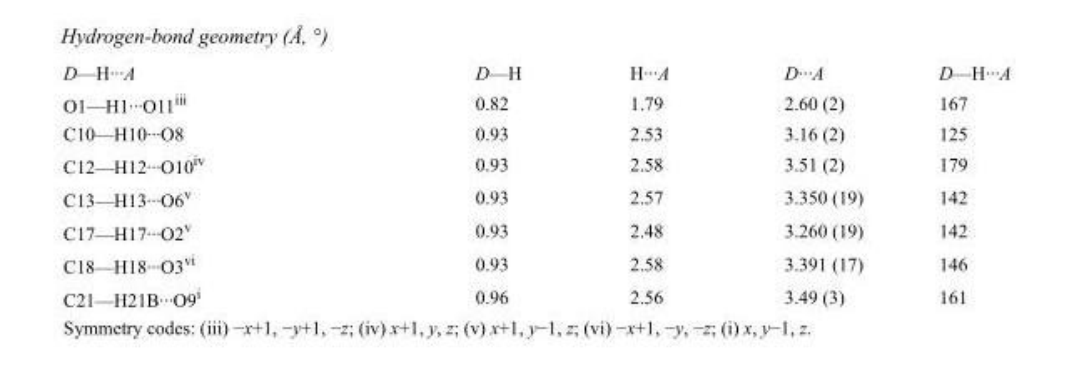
<table><tbody><tr><td>D—H···A</td><td>D—H</td><td>H···A</td><td>D···A</td><td>D—H···A</td></tr><tr><td>O1—H1···O11<sup>iii</sup></td><td>0.82</td><td>1.79</td><td>2.60 (2)</td><td>167</td></tr><tr><td>C10—H10···O8</td><td>0.93</td><td>2.53</td><td>3.16 (2)</td><td>125</td></tr><tr><td>C12—H12···O10<sup>iv</sup></td><td>0.93</td><td>2.58</td><td>3.51 (2)</td><td>179</td></tr><tr><td>C13—H13···O6<sup>v</sup></td><td>0.93</td><td>2.57</td><td>3.350 (19)</td><td>142</td></tr><tr><td>C17—H17···O2<sup>v</sup></td><td>0.93</td><td>2.48</td><td>3.260 (19)</td><td>142</td></tr><tr><td>C18—H18···O3<sup>vi</sup></td><td>0.93</td><td>2.58</td><td>3.391 (17)</td><td>146</td></tr><tr><td>C21—H21B···O9<sup>i</sup></td><td>0.96</td><td>2.56</td><td>3.49 (3)</td><td>161</td></tr></tbody></table>